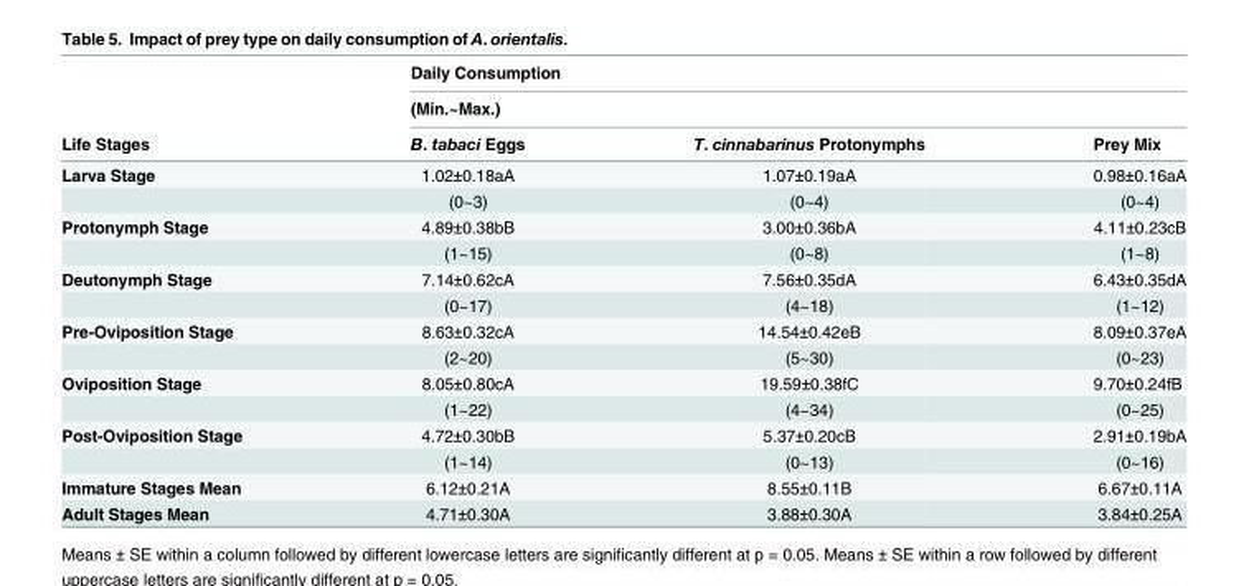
<table><thead><tr><td rowspan="3">Life Stages</td><td rowspan="2" colspan="3">Daily Consumption (Min.~Max.)</td></tr><tr></tr><tr><td>B. tabaci Eggs</td><td>T. cinnabarinus Protonymphs</td><td>Prey Mix</td></tr></thead><tbody><tr><td rowspan="2">Larva Stage</td><td>1.02±0.18aA</td><td>1.07±0.19aA</td><td>0.98±0.16aA</td></tr><tr><td>(0~3)</td><td>(0~4)</td><td>(0~4)</td></tr><tr><td rowspan="2">Protonymph Stage</td><td>4.89±0.38bB</td><td>3.00±0.36bA</td><td>4.11±0.23cB</td></tr><tr><td>(1~15)</td><td>(0~8)</td><td>(1~8)</td></tr><tr><td rowspan="2">Deutonymph Stage</td><td>7.14±0.62cA</td><td>7.56±0.35dA</td><td>6.43±0.35dA</td></tr><tr><td>(0~17)</td><td>(4~18)</td><td>(1~12)</td></tr><tr><td rowspan="2">Pre-Oviposition Stage</td><td>8.63±0.32cA</td><td>14.54±0.42eB</td><td>8.09±0.37eA</td></tr><tr><td>(2~20)</td><td>(5~30)</td><td>(0~23)</td></tr><tr><td rowspan="2">Oviposition Stage</td><td>8.05±0.80cA</td><td>19.59±0.38fC</td><td>9.70±0.24fB</td></tr><tr><td>(1~22)</td><td>(4~34)</td><td>(0~25)</td></tr><tr><td rowspan="2">Post-Oviposition Stage</td><td>4.72±0.30bB</td><td>5.37±0.20cB</td><td>2.91±0.19bA</td></tr><tr><td>(1~14)</td><td>(0~13)</td><td>(0~16)</td></tr><tr><td>Immature Stages Mean</td><td>6.12±0.21A</td><td>8.55±0.11B</td><td>6.67±0.11A</td></tr><tr><td>Adult Stages Mean</td><td>4.71±0.30A</td><td>3.88±0.30A</td><td>3.84±0.25A</td></tr></tbody></table>